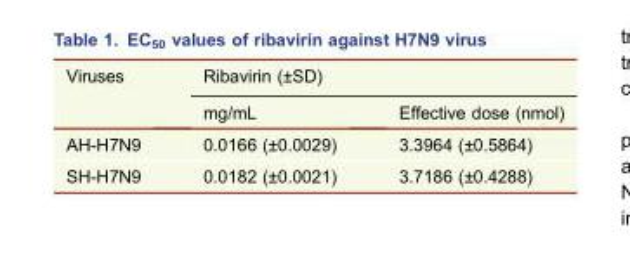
<table><thead><tr><td rowspan="2">Viruses</td><td colspan="2">Ribavirin (±SD)</td></tr><tr><td>mg/mL</td><td>Effective dose (nmol)</td></tr></thead><tbody><tr><td>AH-H7N9</td><td>0.0166 (±0.0029)</td><td>3.3964 (±0.5864)</td></tr><tr><td>SH-H7N9</td><td>0.0182 (±0.0021)</td><td>3.7186 (±0.4288)</td></tr></tbody></table>